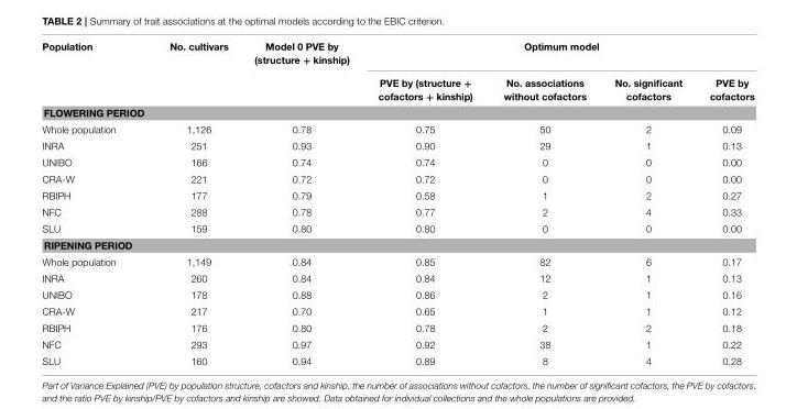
<table><thead><tr><td rowspan="2">Population</td><td rowspan="2">No. cultivars</td><td rowspan="2">Model 0 PVE by (structure + kinship)</td><td colspan="4">Optimum model</td></tr><tr><td>PVE by (structure + cofactors + kinship)</td><td>No. associations without cofactors</td><td>No. significant cofactors</td><td>PVE by cofactors</td></tr></thead><tbody><tr><td colspan="7">FLOWERING PERIOD</td></tr><tr><td>Whole population</td><td>1,126</td><td>0.78</td><td>0.75</td><td>50</td><td>2</td><td>0.09</td></tr><tr><td>INRA</td><td>251</td><td>0.93</td><td>0.90</td><td>29</td><td>1</td><td>0.13</td></tr><tr><td>UNIBO</td><td>166</td><td>0.74</td><td>0.74</td><td>0</td><td>0</td><td>0.00</td></tr><tr><td>CRA-W</td><td>221</td><td>0.72</td><td>0.72</td><td>0</td><td>0</td><td>0.00</td></tr><tr><td>RBIPH</td><td>177</td><td>0.79</td><td>0.58</td><td>1</td><td>2</td><td>0.27</td></tr><tr><td>NFC</td><td>288</td><td>0.78</td><td>0.77</td><td>2</td><td>4</td><td>0.33</td></tr><tr><td>SLU</td><td>159</td><td>0.80</td><td>0.80</td><td>0</td><td>0</td><td>0.00</td></tr><tr><td colspan="7">RIPENING PERIOD</td></tr><tr><td>Whole population</td><td>1,149</td><td>0.84</td><td>0.85</td><td>82</td><td>6</td><td>0.17</td></tr><tr><td>INRA</td><td>260</td><td>0.84</td><td>0.84</td><td>12</td><td>1</td><td>0.13</td></tr><tr><td>UNIBO</td><td>178</td><td>0.88</td><td>0.86</td><td>2</td><td>1</td><td>0.16</td></tr><tr><td>CRA-W</td><td>217</td><td>0.70</td><td>0.65</td><td>1</td><td>1</td><td>0.12</td></tr><tr><td>RBIPH</td><td>176</td><td>0.80</td><td>0.78</td><td>2</td><td>2</td><td>0.18</td></tr><tr><td>NFC</td><td>293</td><td>0.97</td><td>0.92</td><td>38</td><td>1</td><td>0.22</td></tr><tr><td>SLU</td><td>160</td><td>0.94</td><td>0.89</td><td>8</td><td>4</td><td>0.28</td></tr></tbody></table>